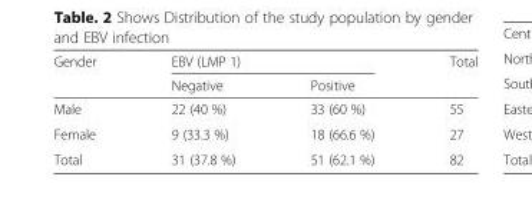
<table><thead><tr><td rowspan="2">Gender</td><td colspan="2">EBV (LMP 1)</td><td rowspan="2">Total</td></tr><tr><td>Negative</td><td>Positive</td></tr></thead><tbody><tr><td>Male</td><td>22 (40 %)</td><td>33 (60 %)</td><td>55</td></tr><tr><td>Female</td><td>9 (33.3 %)</td><td>18 (66.6 %)</td><td>27</td></tr><tr><td>Total</td><td>31 (37.8 %)</td><td>51 (62.1 %)</td><td>82</td></tr></tbody></table>